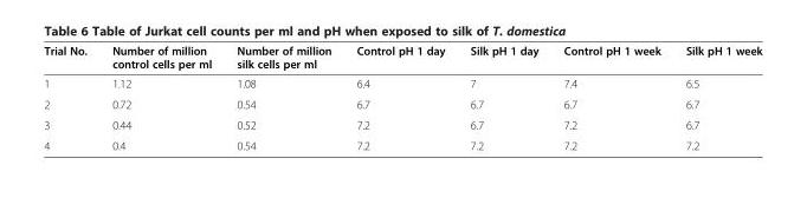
<table><thead><tr><td>Trial No.</td><td>Number of million control cells per ml</td><td>Number of million silk cells per ml</td><td>Control pH 1 day</td><td>Silk pH 1 day</td><td>Control pH 1 week</td><td>Silk pH 1 week</td></tr></thead><tbody><tr><td>1</td><td>1.12</td><td>1.08</td><td>6.4</td><td>7</td><td>7.4</td><td>6.5</td></tr><tr><td>2</td><td>0.72</td><td>0.54</td><td>6.7</td><td>6.7</td><td>6.7</td><td>6.7</td></tr><tr><td>3</td><td>0.44</td><td>0.52</td><td>7.2</td><td>6.7</td><td>7.2</td><td>6.7</td></tr><tr><td>4</td><td>0.4</td><td>0.54</td><td>7.2</td><td>7.2</td><td>7.2</td><td>7.2</td></tr></tbody></table>